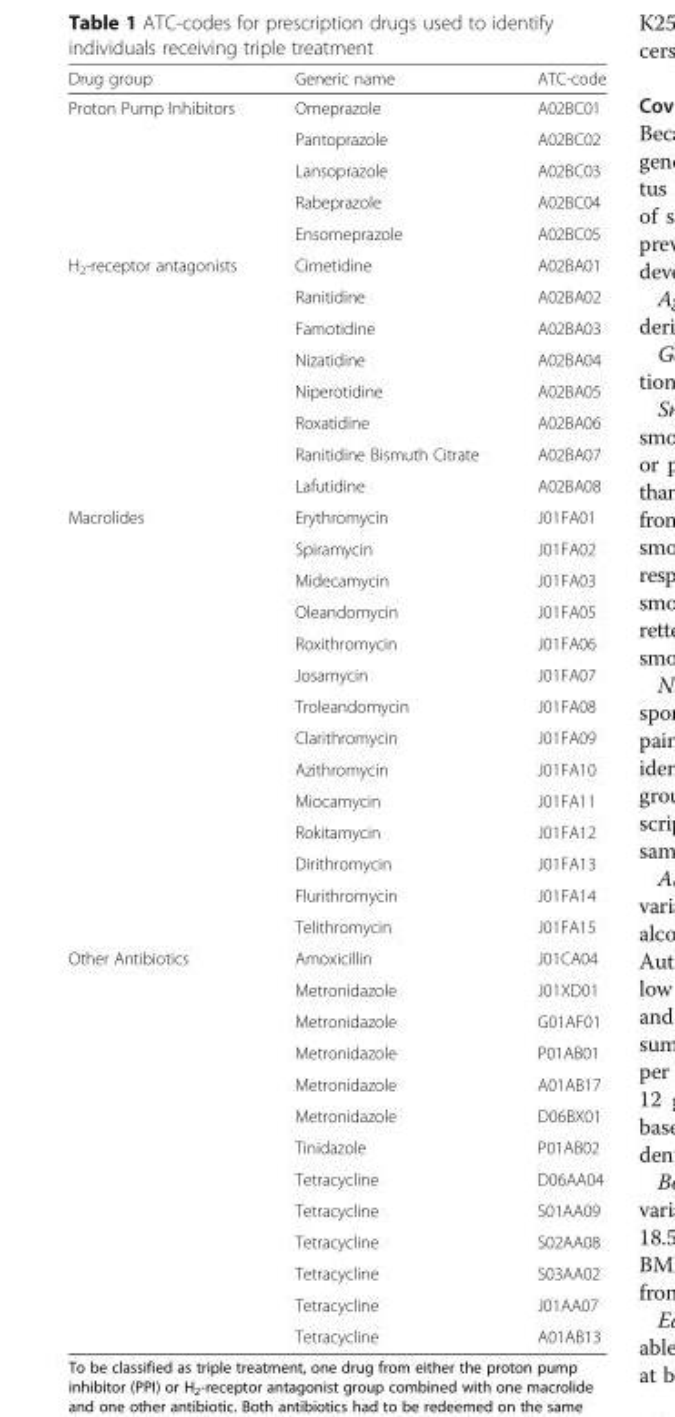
<table><thead><tr><td>Drug group</td><td>Generic name</td><td>ATC-code</td></tr></thead><tbody><tr><td rowspan="5">Proton Pump Inhibitors</td><td>Omeprazole</td><td>A02BC01</td></tr><tr><td>Pantoprazole</td><td>A02BC02</td></tr><tr><td>Lansoprazole</td><td>A02BC03</td></tr><tr><td>Rabeprazole</td><td>A02BC04</td></tr><tr><td>Ensomeprazole</td><td>A02BC05</td></tr><tr><td rowspan="8">H<sub>2</sub>-receptor antagonists</td><td>Cimetidine</td><td>A02BA01</td></tr><tr><td>Ranitidine</td><td>A02BA02</td></tr><tr><td>Famotidine</td><td>A02BA03</td></tr><tr><td>Nizatidine</td><td>A02BA04</td></tr><tr><td>Niperotidine</td><td>A02BA05</td></tr><tr><td>Roxatidine</td><td>A02BA06</td></tr><tr><td>Ranitidine Bismuth Citrate</td><td>A02BA07</td></tr><tr><td>Lafutidine</td><td>A02BA08</td></tr><tr><td rowspan="14">Macrolides</td><td>Erythromycin</td><td>J01FA01</td></tr><tr><td>Spiramycin</td><td>J01FA02</td></tr><tr><td>Midecamycin</td><td>J01FA03</td></tr><tr><td>Oleandomycin</td><td>J01FA05</td></tr><tr><td>Roxithromycin</td><td>J01FA06</td></tr><tr><td>Josamycin</td><td>J01FA07</td></tr><tr><td>Troleandomycin</td><td>J01FA08</td></tr><tr><td>Clarithromycin</td><td>J01FA09</td></tr><tr><td>Azithromycin</td><td>J01FA10</td></tr><tr><td>Miocamycin</td><td>J01FA11</td></tr><tr><td>Rokitamycin</td><td>J01FA12</td></tr><tr><td>Dirithromycin</td><td>J01FA13</td></tr><tr><td>Flurithromycin</td><td>J01FA14</td></tr><tr><td>Telithromycin</td><td>J01FA15</td></tr><tr><td rowspan="13">Other Antibiotics</td><td>Amoxicillin</td><td>J01CA04</td></tr><tr><td>Metronidazole</td><td>J01XD01</td></tr><tr><td>Metronidazole</td><td>G01AF01</td></tr><tr><td>Metronidazole</td><td>P01AB01</td></tr><tr><td>Metronidazole</td><td>A01AB17</td></tr><tr><td>Metronidazole</td><td>D06BX01</td></tr><tr><td>Tinidazole</td><td>P01AB02</td></tr><tr><td>Tetracycline</td><td>D06AA04</td></tr><tr><td>Tetracycline</td><td>S01AA09</td></tr><tr><td>Tetracycline</td><td>S02AA08</td></tr><tr><td>Tetracycline</td><td>S03AA02</td></tr><tr><td>Tetracycline</td><td>J01AA07</td></tr><tr><td>Tetracycline</td><td>A01AB13</td></tr></tbody></table>